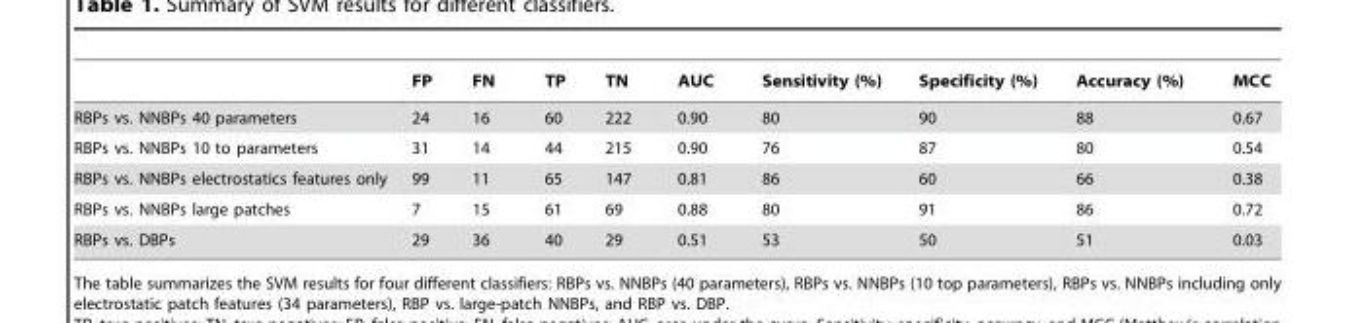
<table><thead><tr><td></td><td>FP</td><td>FN</td><td>TP</td><td>TN</td><td>AUC</td><td>Sensitivity (%)</td><td>Specificity (%)</td><td>Accuracy (%)</td><td>MCC</td></tr></thead><tbody><tr><td>RBPs vs. NNBPs 40 parameters</td><td>24</td><td>16</td><td>60</td><td>222</td><td>0.90</td><td>80</td><td>90</td><td>88</td><td>0.67</td></tr><tr><td>RBPs vs. NNBPs 10 to parameters</td><td>31</td><td>14</td><td>44</td><td>215</td><td>0.90</td><td>76</td><td>87</td><td>80</td><td>0.54</td></tr><tr><td>RBPs vs. NNBPs electrostatics features only</td><td>99</td><td>11</td><td>65</td><td>147</td><td>0.81</td><td>86</td><td>60</td><td>66</td><td>0.38</td></tr><tr><td>RBPs vs. NNBPs large patches</td><td>7</td><td>15</td><td>61</td><td>69</td><td>0.88</td><td>80</td><td>91</td><td>86</td><td>0.72</td></tr><tr><td>RBPs vs. DBPs</td><td>29</td><td>36</td><td>40</td><td>29</td><td>0.51</td><td>53</td><td>50</td><td>51</td><td>0.03</td></tr></tbody></table>